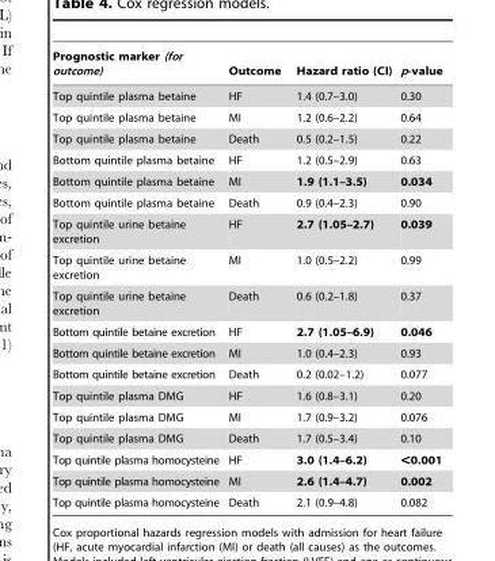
<table><thead><tr><td>Prognostic marker (for outcome)</td><td>Outcome</td><td>Hazard ratio (CI)</td><td>p-value</td></tr></thead><tbody><tr><td>Top quintile plasma betaine</td><td>HF</td><td>1.4 (0.7–3.0)</td><td>0.30</td></tr><tr><td>Top quintile plasma betaine</td><td>MI</td><td>1.2 (0.6–2.2)</td><td>0.64</td></tr><tr><td>Top quintile plasma betaine</td><td>Death</td><td>0.5 (0.2–1.5)</td><td>0.22</td></tr><tr><td>Bottom quintile plasma betaine</td><td>HF</td><td>1.2 (0.5–2.9)</td><td>0.63</td></tr><tr><td>Bottom quintile plasma betaine</td><td>MI</td><td>1.9 (1.1–3.5)</td><td>0.034</td></tr><tr><td>Bottom quintile plasma betaine</td><td>Death</td><td>0.9 (0.4–2.3)</td><td>0.90</td></tr><tr><td>Top quintile urine betaine excretion</td><td>HF</td><td>2.7 (1.05–2.7)</td><td>0.039</td></tr><tr><td>Top quintile urine betaine excretion</td><td>MI</td><td>1.0 (0.5–2.2)</td><td>0.99</td></tr><tr><td>Top quintile urine betaine excretion</td><td>Death</td><td>0.6 (0.2–1.8)</td><td>0.37</td></tr><tr><td>Bottom quintile betaine excretion</td><td>HF</td><td>2.7 (1.05–6.9)</td><td>0.046</td></tr><tr><td>Bottom quintile betaine excretion</td><td>MI</td><td>1.0 (0.4–2.3)</td><td>0.93</td></tr><tr><td>Bottom quintile betaine excretion</td><td>Death</td><td>0.2 (0.02–1.2)</td><td>0.077</td></tr><tr><td>Top quintile plasma DMG</td><td>HF</td><td>1.6 (0.8–3.1)</td><td>0.20</td></tr><tr><td>Top quintile plasma DMG</td><td>MI</td><td>1.7 (0.9–3.2)</td><td>0.076</td></tr><tr><td>Top quintile plasma DMG</td><td>Death</td><td>1.7 (0.5–3.4)</td><td>0.10</td></tr><tr><td>Top quintile plasma homocysteine</td><td>HF</td><td>3.0 (1.4–6.2)</td><td>&lt;0.001</td></tr><tr><td>Top quintile plasma homocysteine</td><td>MI</td><td>2.6 (1.4–4.7)</td><td>0.002</td></tr><tr><td>Top quintile plasma homocysteine</td><td>Death</td><td>2.1 (0.9–4.8)</td><td>0.082</td></tr></tbody></table>